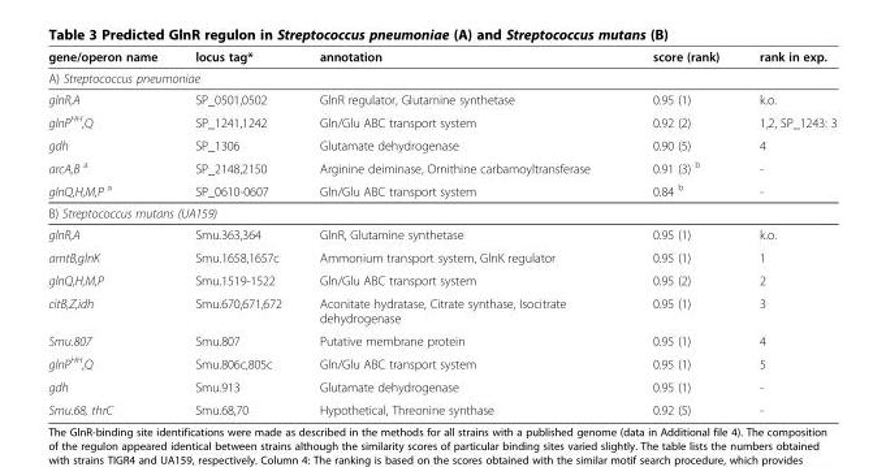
<table><thead><tr><td>gene/operon name</td><td>locus tag*</td><td>annotation</td><td>score (rank)</td><td>rank in exp.</td></tr></thead><tbody><tr><td colspan="5">A) Streptococcus pneumoniae</td></tr><tr><td>glnR,A</td><td>SP_0501,0502</td><td>GlnR regulator, Glutamine synthetase</td><td>0.95 (1)</td><td>k.o.</td></tr><tr><td>glnP<sup>HH</sup>,Q</td><td>SP_1241,1242</td><td>Gln/Glu ABC transport system</td><td>0.92 (2)</td><td>1,2, SP_1243: 3</td></tr><tr><td>gdh</td><td>SP_1306</td><td>Glutamate dehydrogenase</td><td>0.90 (5)</td><td>4</td></tr><tr><td>arcA,B <sup>a</sup></td><td>SP_2148,2150</td><td>Arginine deiminase, Ornithine carbamoyltransferase</td><td>0.91 (3) <sup>b</sup></td><td>-</td></tr><tr><td>glnQ,H,M,P <sup>a</sup></td><td>SP_0610-0607</td><td>Gln/Glu ABC transport system</td><td>0.84 <sup>b</sup></td><td>-</td></tr><tr><td colspan="5">B) Streptococcus mutans (UA159)</td></tr><tr><td>glnR,A</td><td>Smu.363,364</td><td>GlnR, Glutamine synthetase</td><td>0.95 (1)</td><td>k.o.</td></tr><tr><td>amtB,glnK</td><td>Smu.1658,1657c</td><td>Ammonium transport system, GlnK regulator</td><td>0.95 (1)</td><td>1</td></tr><tr><td>glnQ,H,M,P</td><td>Smu.1519-1522</td><td>Gln/Glu ABC transport system</td><td>0.95 (2)</td><td>2</td></tr><tr><td>citB,Z,idh</td><td>Smu.670,671,672</td><td>Aconitate hydratase, Citrate synthase, Isocitrate dehydrogenase</td><td>0.95 (1)</td><td>3</td></tr><tr><td>Smu.807</td><td>Smu.807</td><td>Putative membrane protein</td><td>0.95 (1)</td><td>4</td></tr><tr><td>glnP<sup>HH</sup>,Q</td><td>Smu.806c,805c</td><td>Gln/Glu ABC transport system</td><td>0.95 (1)</td><td>5</td></tr><tr><td>gdh</td><td>Smu.913</td><td>Glutamate dehydrogenase</td><td>0.95 (1)</td><td>-</td></tr><tr><td>Smu.68, thrC</td><td>Smu.68,70</td><td>Hypothetical, Threonine synthase</td><td>0.92 (5)</td><td>-</td></tr></tbody></table>